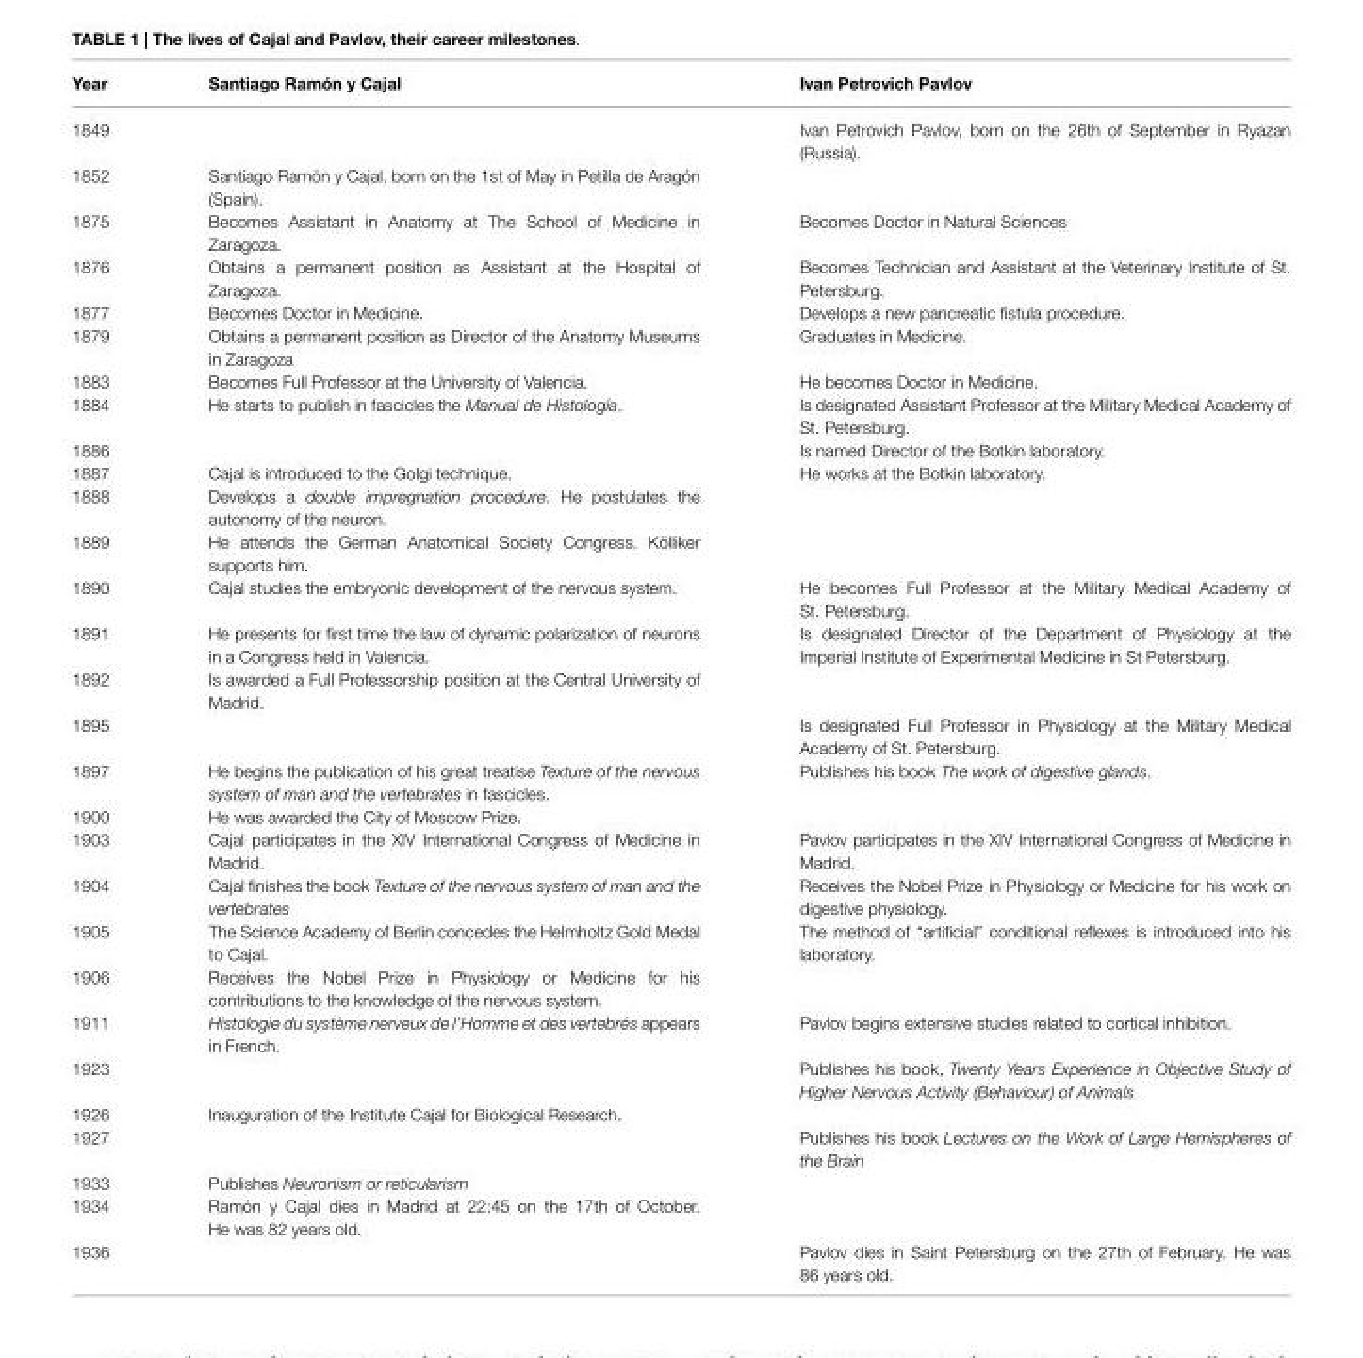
<table><thead><tr><td>Year</td><td>Santiago Ramón y Cajal</td><td>Ivan Petrovich Pavlov</td></tr></thead><tbody><tr><td>1849</td><td></td><td>Ivan Petrovich Pavlov, born on the 26th of September in Ryazan (Russia).</td></tr><tr><td>1852</td><td>Santiago Ramón y Cajal, born on the 1st of May in Petilla de Aragón (Spain).</td><td></td></tr><tr><td>1875</td><td>Becomes Assistant in Anatomy at The School of Medicine in Zaragoza.</td><td>Becomes Doctor in Natural Sciences</td></tr><tr><td>1876</td><td>Obtains a permanent position as Assistant at the Hospital of Zaragoza.</td><td>Becomes Technician and Assistant at the Veterinary Institute of St. Petersburg.</td></tr><tr><td>1877</td><td>Becomes Doctor in Medicine.</td><td>Develops a new pancreatic fistula procedure.</td></tr><tr><td>1879</td><td>Obtains a permanent position as Director of the Anatomy Museums in Zaragoza</td><td>Graduates in Medicine.</td></tr><tr><td>1883</td><td>Becomes Full Professor at the University of Valencia.</td><td>He becomes Doctor in Medicine.</td></tr><tr><td>1884</td><td>He starts to publish in fascicles the Manual de Histología.</td><td>Is designated Assistant Professor at the Military Medical Academy of St. Petersburg.</td></tr><tr><td>1886</td><td></td><td>Is named Director of the Botkin laboratory.</td></tr><tr><td>1887</td><td>Cajal is introduced to the Golgi technique.</td><td>He works at the Botkin laboratory.</td></tr><tr><td>1888</td><td>Develops a double impregnation procedure. He postulates the autonomy of the neuron.</td><td></td></tr><tr><td>1889</td><td>He attends the German Anatomical Society Congress. Kölliker supports him.</td><td></td></tr><tr><td>1890</td><td>Cajal studies the embryonic development of the nervous system.</td><td>He becomes Full Professor at the Military Medical Academy of St. Petersburg.</td></tr><tr><td>1891</td><td>He presents for first time the law of dynamic polarization of neurons in a Congress held in Valencia.</td><td>Is designated Director of the Department of Physiology at the Imperial Institute of Experimental Medicine in St Petersburg.</td></tr><tr><td>1892</td><td>Is awarded a Full Professorship position at the Central University of Madrid.</td><td></td></tr><tr><td>1895</td><td></td><td>Is designated Full Professor in Physiology at the Military Medical Academy of St. Petersburg.</td></tr><tr><td>1897</td><td>He begins the publication of his great treatise Texture of the nervous system of man and the vertebrates in fascicles.</td><td>Publishes his book The work of digestive glands.</td></tr><tr><td>1900</td><td>He was awarded the City of Moscow Prize.</td><td></td></tr><tr><td>1903</td><td>Cajal participates in the XIV International Congress of Medicine in Madrid.</td><td>Pavlov participates in the XIV International Congress of Medicine in Madrid.</td></tr><tr><td>1904</td><td>Cajal finishes the book Texture of the nervous system of man and the vertebrates</td><td>Receives the Nobel Prize in Physiology or Medicine for his work on digestive physiology.</td></tr><tr><td>1905</td><td>The Science Academy of Berlin concedes the Helmholtz Gold Medal to Cajal.</td><td>The method of “artificial” conditional reflexes is introduced into his laboratory.</td></tr><tr><td>1906</td><td>Receives the Nobel Prize in Physiology or Medicine for his contributions to the knowledge of the nervous system.</td><td></td></tr><tr><td>1911</td><td>Histologie du système nerveux de l’Homme et des vertebrés appears in French.</td><td>Pavlov begins extensive studies related to cortical inhibition.</td></tr><tr><td>1923</td><td></td><td>Publishes his book, Twenty Years Experience in Objective Study of Higher Nervous Activity (Behaviour) of Animals</td></tr><tr><td>1926</td><td>Inauguration of the Institute Cajal for Biological Research.</td><td></td></tr><tr><td>1927</td><td></td><td>Publishes his book Lectures on the Work of Large Hemispheres of the Brain</td></tr><tr><td>1933</td><td>Publishes Neuronism or reticularism</td><td></td></tr><tr><td>1934</td><td>Ramón y Cajal dies in Madrid at 22:45 on the 17th of October. He was 82 years old.</td><td></td></tr><tr><td>1936</td><td></td><td>Pavlov dies in Saint Petersburg on the 27th of February. He was 86 years old.</td></tr></tbody></table>